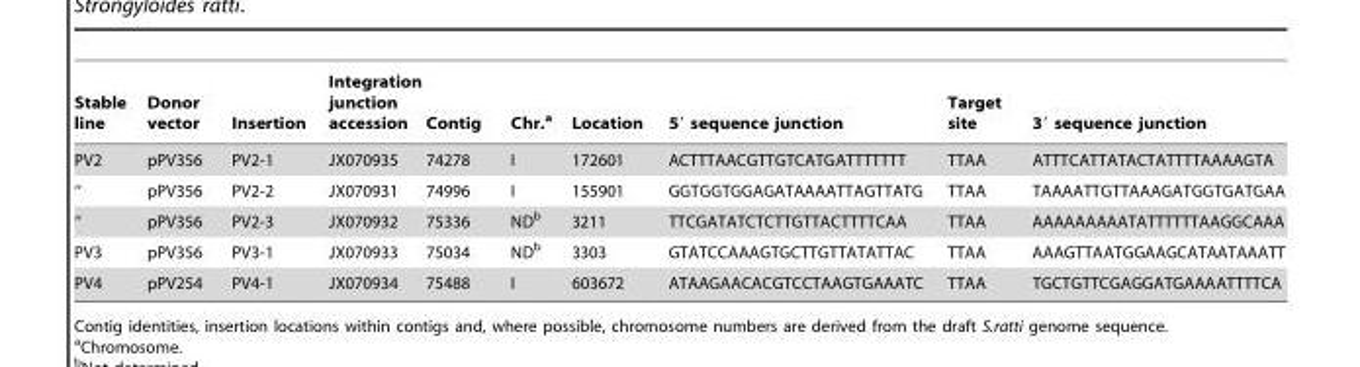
<table><thead><tr><td>Stable line</td><td>Donor vector</td><td>Insertion</td><td>Integration junction accession</td><td>Contig</td><td>Chr.<sup>a</sup></td><td>Location</td><td>5′ sequence junction</td><td>Target site</td><td>3′ sequence junction</td></tr></thead><tbody><tr><td>PV2</td><td>pPV356</td><td>PV2-1</td><td>JX070935</td><td>74278</td><td>I</td><td>172601</td><td>ACTTTAACGTTGTCATGATTTTTTT</td><td>TTAA</td><td>ATTTCATTATACTATTTTAAAAGTA</td></tr><tr><td>‘‘</td><td>pPV356</td><td>PV2-2</td><td>JX070931</td><td>74996</td><td>I</td><td>155901</td><td>GGTGGTGGAGATAAAATTAGTTATG</td><td>TTAA</td><td>TAAAATTGTTAAAGATGGTGATGAA</td></tr><tr><td>‘‘</td><td>pPV356</td><td>PV2-3</td><td>JX070932</td><td>75336</td><td>ND<sup>b</sup></td><td>3211</td><td>TTCGATATCTCTTGTTACTTTTCAA</td><td>TTAA</td><td>AAAAAAAAATATTTTTTAAGGCAAA</td></tr><tr><td>PV3</td><td>pPV356</td><td>PV3-1</td><td>JX070933</td><td>75034</td><td>ND<sup>b</sup></td><td>3303</td><td>GTATCCAAAGTGCTTGTTATATTAC</td><td>TTAA</td><td>AAAGTTAATGGAAGCATAATAAATT</td></tr><tr><td>PV4</td><td>pPV254</td><td>PV4-1</td><td>JX070934</td><td>75488</td><td>I</td><td>603672</td><td>ATAAGAACACGTCCTAAGTGAAATC</td><td>TTAA</td><td>TGCTGTTCGAGGATGAAAATTTTCA</td></tr></tbody></table>